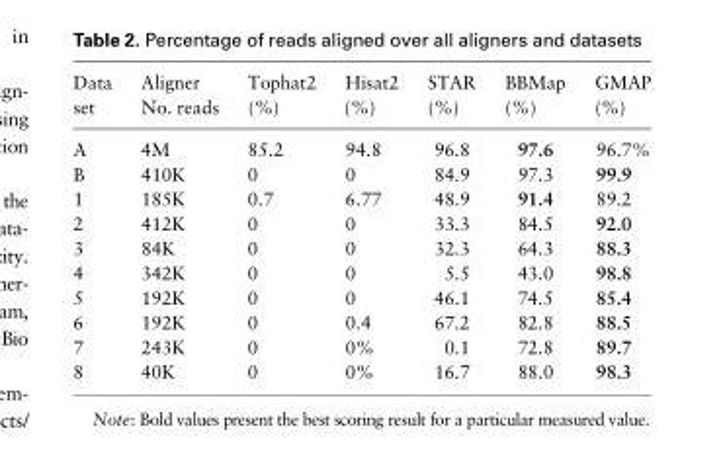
<table><thead><tr><td rowspan="2">Data set</td><td rowspan="2">Aligner No. reads</td><td rowspan="2">Tophat2 (%)</td><td rowspan="2">Hisat2 (%)</td><td rowspan="2">STAR (%)</td><td rowspan="2">BBMap (%)</td><td rowspan="2">GMAP (%)</td></tr><tr></tr></thead><tbody><tr><td>A</td><td>4M</td><td>85.2</td><td>94.8</td><td>96.8</td><td>97.6</td><td>96.7%</td></tr><tr><td>B</td><td>410K</td><td>0</td><td>0</td><td>84.9</td><td>97.3</td><td>99.9</td></tr><tr><td>1</td><td>185K</td><td>0.7</td><td>6.77</td><td>48.9</td><td>91.4</td><td>89.2</td></tr><tr><td>2</td><td>412K</td><td>0</td><td>0</td><td>33.3</td><td>84.5</td><td>92.0</td></tr><tr><td>3</td><td>84K</td><td>0</td><td>0</td><td>32.3</td><td>64.3</td><td>88.3</td></tr><tr><td>4</td><td>342K</td><td>0</td><td>0</td><td>5.5</td><td>43.0</td><td>98.8</td></tr><tr><td>5</td><td>192K</td><td>0</td><td>0</td><td>46.1</td><td>74.5</td><td>85.4</td></tr><tr><td>6</td><td>192K</td><td>0</td><td>0.4</td><td>67.2</td><td>82.8</td><td>88.5</td></tr><tr><td>7</td><td>243K</td><td>0</td><td>0%</td><td>0.1</td><td>72.8</td><td>89.7</td></tr><tr><td>8</td><td>40K</td><td>0</td><td>0%</td><td>16.7</td><td>88.0</td><td>98.3</td></tr></tbody></table>